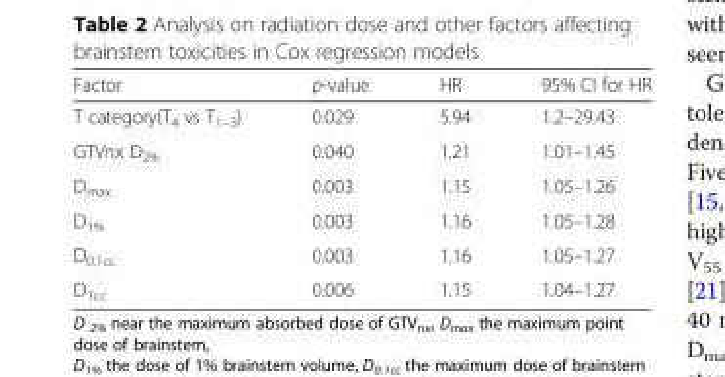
<table><thead><tr><td>Factor</td><td>p-value</td><td>HR</td><td>95% CI for HR</td></tr></thead><tbody><tr><td>T category(T<sub>4</sub> vs T<sub>1–3</sub>)</td><td>0.029</td><td>5.94</td><td>1.2–29.43</td></tr><tr><td>GTVnx D<sub>2%</sub></td><td>0.040</td><td>1.21</td><td>1.01–1.45</td></tr><tr><td>D<sub>max</sub></td><td>0.003</td><td>1.15</td><td>1.05–1.26</td></tr><tr><td>D<sub>1%</sub></td><td>0.003</td><td>1.16</td><td>1.05–1.28</td></tr><tr><td>D<sub>0.1cc</sub></td><td>0.003</td><td>1.16</td><td>1.05–1.27</td></tr><tr><td>D<sub>1cc</sub></td><td>0.006</td><td>1.15</td><td>1.04–1.27</td></tr></tbody></table>